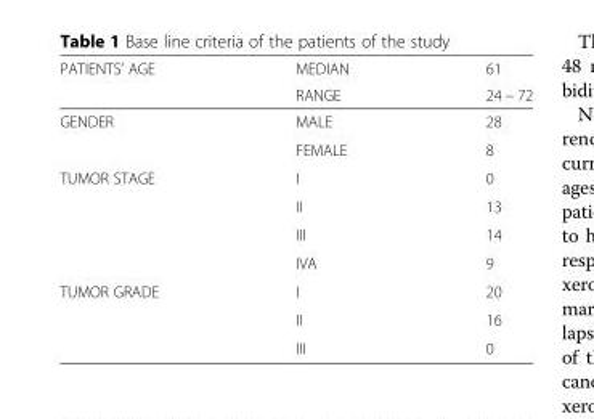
<table><thead><tr><td rowspan="2">PATIENTS’ AGE</td><td rowspan="2">MEDIAN RANGE</td><td rowspan="2">61 24 − 72</td></tr><tr></tr></thead><tbody><tr><td rowspan="2">GENDER</td><td>MALE</td><td>28</td></tr><tr><td>FEMALE</td><td>8</td></tr><tr><td rowspan="4">TUMOR STAGE</td><td>I</td><td>0</td></tr><tr><td>II</td><td>13</td></tr><tr><td>III</td><td>14</td></tr><tr><td>IVA</td><td>9</td></tr><tr><td rowspan="3">TUMOR GRADE</td><td>I</td><td>20</td></tr><tr><td>II</td><td>16</td></tr><tr><td>III</td><td>0</td></tr></tbody></table>